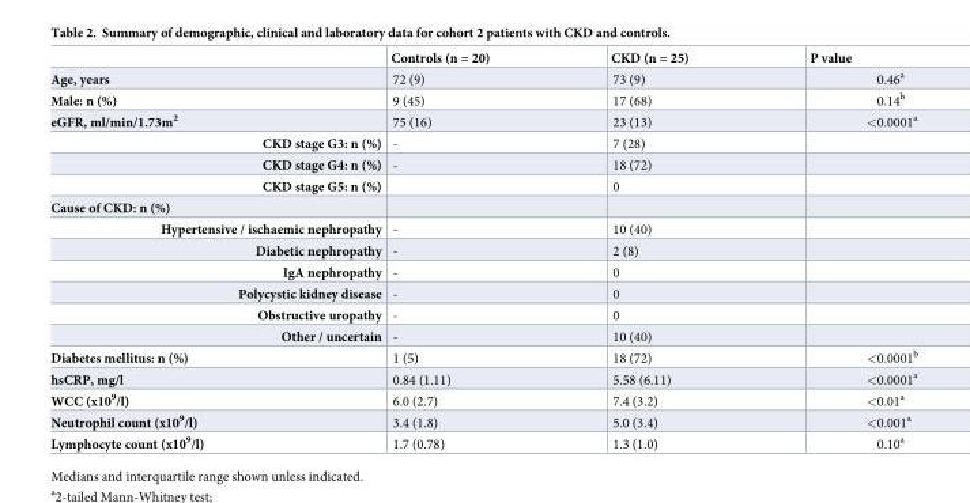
<table><thead><tr><td></td><td>Controls (n = 20)</td><td>CKD (n = 25)</td><td>P value</td></tr></thead><tbody><tr><td>Age, years</td><td>72 (9)</td><td>73 (9)</td><td>0.46<sup>a</sup></td></tr><tr><td>Male: n (%)</td><td>9 (45)</td><td>17 (68)</td><td>0.14<sup>b</sup></td></tr><tr><td>eGFR, ml/min/1.73m<sup>2</sup></td><td>75 (16)</td><td>23 (13)</td><td>&lt;0.0001<sup>a</sup></td></tr><tr><td>CKD stage G3: n (%)</td><td>-</td><td>7 (28)</td><td></td></tr><tr><td>CKD stage G4: n (%)</td><td>-</td><td>18 (72)</td><td></td></tr><tr><td>CKD stage G5: n (%)</td><td></td><td>0</td><td></td></tr><tr><td colspan="4">Cause of CKD: n (%)</td></tr><tr><td>Hypertensive / ischaemic nephropathy</td><td>-</td><td>10 (40)</td><td></td></tr><tr><td>Diabetic nephropathy</td><td>-</td><td>2 (8)</td><td></td></tr><tr><td>IgA nephropathy</td><td>-</td><td>0</td><td></td></tr><tr><td>Polycystic kidney disease</td><td>-</td><td>0</td><td></td></tr><tr><td>Obstructive uropathy</td><td>-</td><td>0</td><td></td></tr><tr><td>Other / uncertain</td><td>-</td><td>10 (40)</td><td></td></tr><tr><td>Diabetes mellitus: n (%)</td><td>1 (5)</td><td>18 (72)</td><td>&lt;0.0001<sup>b</sup></td></tr><tr><td>hsCRP, mg/l</td><td>0.84 (1.11)</td><td>5.58 (6.11)</td><td>&lt;0.0001<sup>a</sup></td></tr><tr><td>WCC (x10<sup>9</sup>/l)</td><td>6.0 (2.7)</td><td>7.4 (3.2)</td><td>&lt;0.01<sup>a</sup></td></tr><tr><td>Neutrophil count (x10<sup>9</sup>/l)</td><td>3.4 (1.8)</td><td>5.0 (3.4)</td><td>&lt;0.001<sup>a</sup></td></tr><tr><td>Lymphocyte count (x10<sup>9</sup>/l)</td><td>1.7 (0.78)</td><td>1.3 (1.0)</td><td>0.10<sup>a</sup></td></tr></tbody></table>